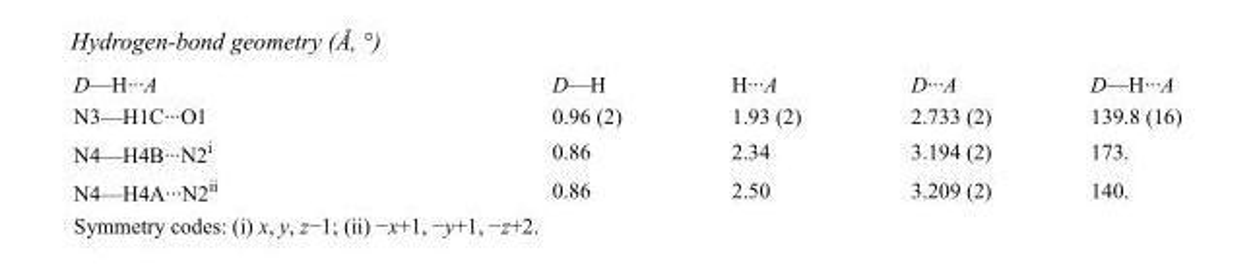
<table><tbody><tr><td>D—H···A</td><td>D—H</td><td>H···A</td><td>D···A</td><td>D—H···A</td></tr><tr><td>N3—H1C···O1</td><td>0.96 (2)</td><td>1.93 (2)</td><td>2.733 (2)</td><td>139.8 (16)</td></tr><tr><td>N4—H4B···N2<sup>i</sup></td><td>0.86</td><td>2.34</td><td>3.194 (2)</td><td>173.</td></tr><tr><td>N4—H4A···N2<sup>ii</sup></td><td>0.86</td><td>2.50</td><td>3.209 (2)</td><td>140.</td></tr></tbody></table>